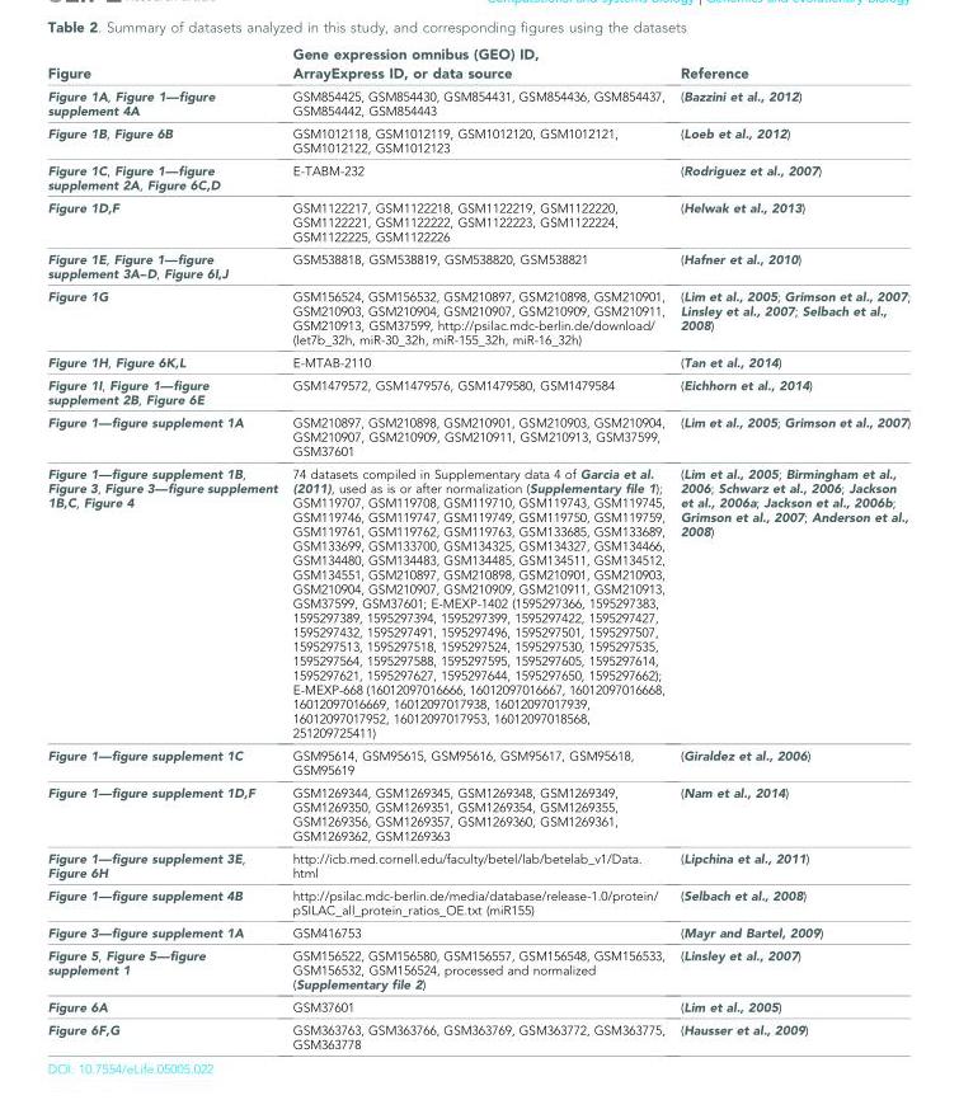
<table><thead><tr><td>Figure</td><td>Gene expression omnibus (GEO) ID, ArrayExpress ID, or data source</td><td>Reference</td></tr></thead><tbody><tr><td>Figure 1A, Figure 1—figure supplement 4A</td><td>GSM854425, GSM854430, GSM854431, GSM854436, GSM854437, GSM854442, GSM854443</td><td>(Bazzini et al., 2012)</td></tr><tr><td>Figure 1B, Figure 6B</td><td>GSM1012118, GSM1012119, GSM1012120, GSM1012121, GSM1012122, GSM1012123</td><td>(Loeb et al., 2012)</td></tr><tr><td>Figure 1C, Figure 1—figure supplement 2A, Figure 6C,D</td><td>E-TABM-232</td><td>(Rodriguez et al., 2007)</td></tr><tr><td>Figure 1D,F</td><td>GSM1122217, GSM1122218, GSM1122219, GSM1122220, GSM1122221, GSM1122222, GSM1122223, GSM1122224, GSM1122225, GSM1122226</td><td>(Helwak et al., 2013)</td></tr><tr><td>Figure 1E, Figure 1—figure supplement 3A–D, Figure 6I,J</td><td>GSM538818, GSM538819, GSM538820, GSM538821</td><td>(Hafner et al., 2010)</td></tr><tr><td>Figure 1G</td><td>GSM156524, GSM156532, GSM210897, GSM210898, GSM210901, GSM210903, GSM210904, GSM210907, GSM210909, GSM210911, GSM210913, GSM37599, http://psilac.mdc-berlin.de/download/ (let7b_32h, miR-30_32h, miR-155_32h, miR-16_32h)</td><td>(Lim et al., 2005; Grimson et al., 2007; Linsley et al., 2007; Selbach et al., 2008)</td></tr><tr><td>Figure 1H, Figure 6K,L</td><td>E-MTAB-2110</td><td>(Tan et al., 2014)</td></tr><tr><td>Figure 1I, Figure 1—figure supplement 2B, Figure 6E</td><td>GSM1479572, GSM1479576, GSM1479580, GSM1479584</td><td>(Eichhorn et al., 2014)</td></tr><tr><td>Figure 1—figure supplement 1A</td><td>GSM210897, GSM210898, GSM210901, GSM210903, GSM210904, GSM210907, GSM210909, GSM210911, GSM210913, GSM37599, GSM37601</td><td>(Lim et al., 2005; Grimson et al., 2007)</td></tr><tr><td>Figure 1—figure supplement 1B, Figure 3, Figure 3—figure supplement 1B,C, Figure 4</td><td>74 datasets compiled in Supplementary data 4 of Garcia et al. (2011), used as is or after normalization (Supplementary file 1); GSM119707, GSM119708, GSM119710, GSM119743, GSM119745, GSM119746, GSM119747, GSM119749, GSM119750, GSM119759, GSM119761, GSM119762, GSM119763, GSM133685, GSM133689, GSM133699, GSM133700, GSM134325, GSM134327, GSM134466, GSM134480, GSM134483, GSM134485, GSM134511, GSM134512, GSM134551, GSM210897, GSM210898, GSM210901, GSM210903, GSM210904, GSM210907, GSM210909, GSM210911, GSM210913, GSM37599, GSM37601; E-MEXP-1402 (1595297366, 1595297383, 1595297389, 1595297394, 1595297399, 1595297422, 1595297427, 1595297432, 1595297491, 1595297496, 1595297501, 1595297507, 1595297513, 1595297518, 1595297524, 1595297530, 1595297535, 1595297564, 1595297588, 1595297595, 1595297605, 1595297614, 1595297621, 1595297627, 1595297644, 1595297650, 1595297662); E-MEXP-668 (16012097016666, 16012097016667, 16012097016668, 16012097016669, 16012097017938, 16012097017939, 16012097017952, 16012097017953, 16012097018568, 251209725411)</td><td>(Lim et al., 2005; Birmingham et al., 2006; Schwarz et al., 2006; Jackson et al., 2006a; Jackson et al., 2006b; Grimson et al., 2007; Anderson et al., 2008)</td></tr><tr><td>Figure 1—figure supplement 1C</td><td>GSM95614, GSM95615, GSM95616, GSM95617, GSM95618, GSM95619</td><td>(Giraldez et al., 2006)</td></tr><tr><td>Figure 1—figure supplement 1D,F</td><td>GSM1269344, GSM1269345, GSM1269348, GSM1269349, GSM1269350, GSM1269351, GSM1269354, GSM1269355, GSM1269356, GSM1269357, GSM1269360, GSM1269361, GSM1269362, GSM1269363</td><td>(Nam et al., 2014)</td></tr><tr><td>Figure 1—figure supplement 3E, Figure 6H</td><td>http://icb.med.cornell.edu/faculty/betel/lab/betelab_v1/Data. html</td><td>(Lipchina et al., 2011)</td></tr><tr><td>Figure 1—figure supplement 4B</td><td>http://psilac.mdc-berlin.de/media/database/release-1.0/protein/ pSILAC_all_protein_ratios_OE.txt (miR155)</td><td>(Selbach et al., 2008)</td></tr><tr><td>Figure 3—figure supplement 1A</td><td>GSM416753</td><td>(Mayr and Bartel, 2009)</td></tr><tr><td>Figure 5, Figure 5—figure supplement 1</td><td>GSM156522, GSM156580, GSM156557, GSM156548, GSM156533, GSM156532, GSM156524, processed and normalized (Supplementary file 2)</td><td>(Linsley et al., 2007)</td></tr><tr><td>Figure 6A</td><td>GSM37601</td><td>(Lim et al., 2005)</td></tr><tr><td>Figure 6F,G</td><td>GSM363763, GSM363766, GSM363769, GSM363772, GSM363775, GSM363778</td><td>(Hausser et al., 2009)</td></tr></tbody></table>